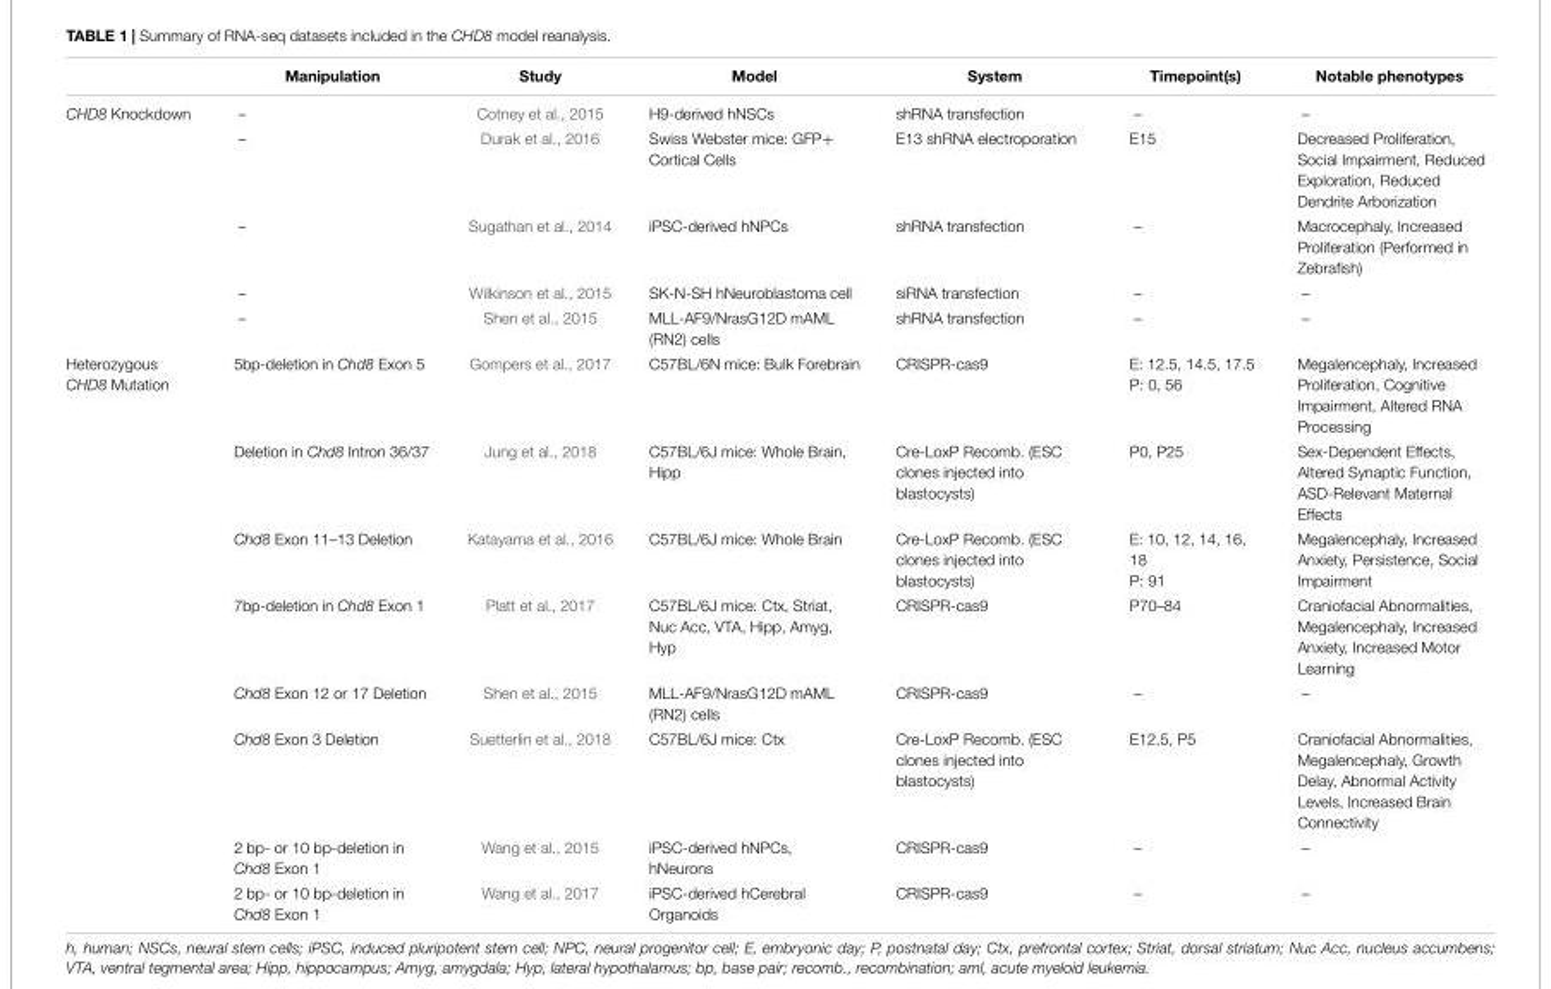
<table><thead><tr><td></td><td>Manipulation</td><td>Study</td><td>Model</td><td>System</td><td>Timepoint(s)</td><td>Notable phenotypes</td></tr></thead><tbody><tr><td rowspan="5">CHD8 Knockdown</td><td>–</td><td>Cotney et al., 2015</td><td>H9-derived hNSCs</td><td>shRNA transfection</td><td>–</td><td>–</td></tr><tr><td>–</td><td>Durak et al., 2016</td><td>Swiss Webster mice: GFP+ Cortical Cells</td><td>E13 shRNA electroporation</td><td>E15</td><td>Decreased Proliferation, Social Impairment, Reduced Exploration, Reduced Dendrite Arborization</td></tr><tr><td>–</td><td>Sugathan et al., 2014</td><td>iPSC-derived hNPCs</td><td>shRNA transfection</td><td>–</td><td>Macrocephaly, Increased Proliferation (Performed in Zebrafish)</td></tr><tr><td>–</td><td>Wilkinson et al., 2015</td><td>SK-N-SH hNeuroblastoma cell</td><td>siRNA transfection</td><td>–</td><td>–</td></tr><tr><td>–</td><td>Shen et al., 2015</td><td>MLL-AF9/NrasG12D mAML (RN2) cells</td><td>shRNA transfection</td><td>–</td><td>–</td></tr><tr><td rowspan="8">Heterozygous CHD8 Mutation</td><td>5bp-deletion in Chd8 Exon 5</td><td>Gompers et al., 2017</td><td>C57BL/6N mice: Bulk Forebrain</td><td>CRISPR-cas9</td><td>E: 12.5, 14.5, 17.5 P: 0, 56</td><td>Megalencephaly, Increased Proliferation, Cognitive Impairment, Altered RNA Processing</td></tr><tr><td>Deletion in Chd8 Intron 36/37</td><td>Jung et al., 2018</td><td>C57BL/6J mice: Whole Brain, Hipp</td><td>Cre-LoxP Recomb. (ESC clones injected into blastocysts)</td><td>P0, P25</td><td>Sex-Dependent Effects, Altered Synaptic Function, ASD-Relevant Maternal Effects</td></tr><tr><td>Chd8 Exon 11–13 Deletion</td><td>Katayama et al., 2016</td><td>C57BL/6J mice: Whole Brain</td><td>Cre-LoxP Recomb. (ESC clones injected into blastocysts)</td><td>E: 10, 12, 14, 16, 18 P: 91</td><td>Megalencephaly, Increased Anxiety, Persistence, Social Impairment</td></tr><tr><td>7bp-deletion in Chd8 Exon 1</td><td>Platt et al., 2017</td><td>C57BL/6J mice: Ctx, Striat, Nuc Acc, VTA, Hipp, Amyg, Hyp</td><td>CRISPR-cas9</td><td>P70–84</td><td>Craniofacial Abnormalities, Megalencephaly, Increased Anxiety, Increased Motor Learning</td></tr><tr><td>Chd8 Exon 12 or 17 Deletion</td><td>Shen et al., 2015</td><td>MLL-AF9/NrasG12D mAML (RN2) cells</td><td>CRISPR-cas9</td><td>–</td><td>–</td></tr><tr><td>Chd8 Exon 3 Deletion</td><td>Suetterlin et al., 2018</td><td>C57BL/6J mice: Ctx</td><td>Cre-LoxP Recomb. (ESC clones injected into blastocysts)</td><td>E12.5, P5</td><td>Craniofacial Abnormalities, Megalencephaly, Growth Delay, Abnormal Activity Levels, Increased Brain Connectivity</td></tr><tr><td>2 bp- or 10 bp-deletion in Chd8 Exon 1</td><td>Wang et al., 2015</td><td>iPSC-derived hNPCs, hNeurons</td><td>CRISPR-cas9</td><td>–</td><td>–</td></tr><tr><td>2 bp- or 10 bp-deletion in Chd8 Exon 1</td><td>Wang et al., 2017</td><td>iPSC-derived hCerebral Organoids</td><td>CRISPR-cas9</td><td>–</td><td>–</td></tr></tbody></table>